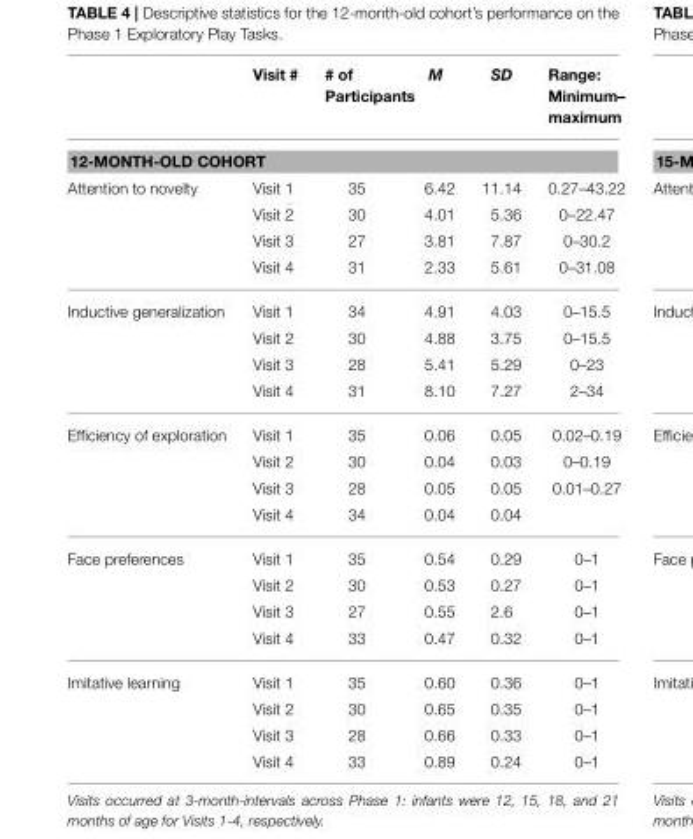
<table><thead><tr><td></td><td>Visit #</td><td># of Participants</td><td>M</td><td>SD</td><td>Range: Minimum– maximum</td></tr></thead><tbody><tr><td colspan="6">12-MONTH-OLD COHORT</td></tr><tr><td rowspan="4">Attention to novelty</td><td>Visit 1</td><td>35</td><td>6.42</td><td>11.14</td><td>0.27–43.22</td></tr><tr><td>Visit 2</td><td>30</td><td>4.01</td><td>5.36</td><td>0–22.47</td></tr><tr><td>Visit 3</td><td>27</td><td>3.81</td><td>7.87</td><td>0–30.2</td></tr><tr><td>Visit 4</td><td>31</td><td>2.33</td><td>5.61</td><td>0–31.08</td></tr><tr><td rowspan="4">Inductive generalization</td><td>Visit 1</td><td>34</td><td>4.91</td><td>4.03</td><td>0–15.5</td></tr><tr><td>Visit 2</td><td>30</td><td>4.88</td><td>3.75</td><td>0–15.5</td></tr><tr><td>Visit 3</td><td>28</td><td>5.41</td><td>5.29</td><td>0–23</td></tr><tr><td>Visit 4</td><td>31</td><td>8.10</td><td>7.27</td><td>2–34</td></tr><tr><td rowspan="4">Efficiency of exploration</td><td>Visit 1</td><td>35</td><td>0.06</td><td>0.05</td><td>0.02–0.19</td></tr><tr><td>Visit 2</td><td>30</td><td>0.04</td><td>0.03</td><td>0–0.19</td></tr><tr><td>Visit 3</td><td>28</td><td>0.05</td><td>0.05</td><td>0.01–0.27</td></tr><tr><td>Visit 4</td><td>34</td><td>0.04</td><td>0.04</td><td></td></tr><tr><td rowspan="4">Face preferences</td><td>Visit 1</td><td>35</td><td>0.54</td><td>0.29</td><td>0–1</td></tr><tr><td>Visit 2</td><td>30</td><td>0.53</td><td>0.27</td><td>0–1</td></tr><tr><td>Visit 3</td><td>27</td><td>0.55</td><td>2.6</td><td>0–1</td></tr><tr><td>Visit 4</td><td>33</td><td>0.47</td><td>0.32</td><td>0–1</td></tr><tr><td rowspan="4">Imitative learning</td><td>Visit 1</td><td>35</td><td>0.60</td><td>0.36</td><td>0–1</td></tr><tr><td>Visit 2</td><td>30</td><td>0.65</td><td>0.35</td><td>0–1</td></tr><tr><td>Visit 3</td><td>28</td><td>0.66</td><td>0.33</td><td>0–1</td></tr><tr><td>Visit 4</td><td>33</td><td>0.89</td><td>0.24</td><td>0–1</td></tr></tbody></table>